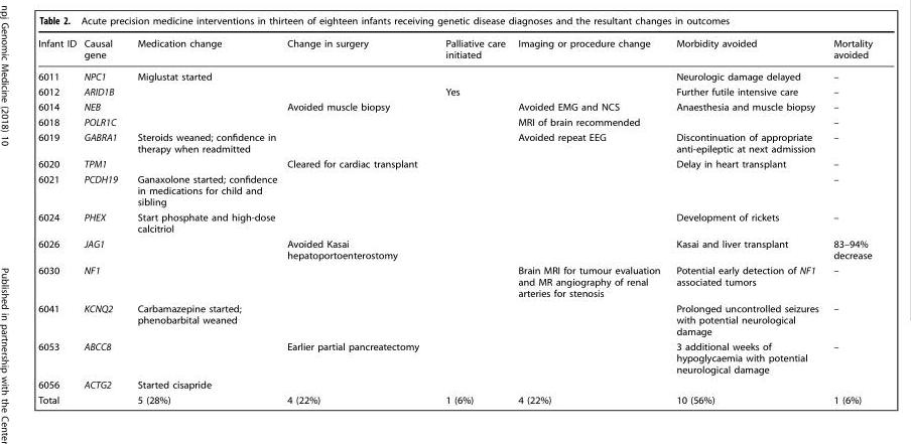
<table><thead><tr><td>Infant ID</td><td>Causal gene</td><td>Medication change</td><td>Change in surgery</td><td>Palliative care initiated</td><td>Imaging or procedure change</td><td>Morbidity avoided</td><td>Mortality avoided</td></tr></thead><tbody><tr><td>6011</td><td>NPC1</td><td>Miglustat started</td><td></td><td></td><td></td><td>Neurologic damage delayed</td><td>–</td></tr><tr><td>6012</td><td>ARID1B</td><td></td><td></td><td>Yes</td><td></td><td>Further futile intensive care</td><td>–</td></tr><tr><td>6014</td><td>NEB</td><td></td><td>Avoided muscle biopsy</td><td></td><td>Avoided EMG and NCS</td><td>Anaesthesia and muscle biopsy</td><td>–</td></tr><tr><td>6018</td><td>POLR1C</td><td></td><td></td><td></td><td>MRI of brain recommended</td><td></td><td>–</td></tr><tr><td>6019</td><td>GABRA1</td><td>Steroids weaned; confidence in therapy when readmitted</td><td></td><td></td><td>Avoided repeat EEG</td><td>Discontinuation of appropriate anti-epileptic at next admission</td><td>–</td></tr><tr><td>6020</td><td>TPM1</td><td></td><td>Cleared for cardiac transplant</td><td></td><td></td><td>Delay in heart transplant</td><td>–</td></tr><tr><td>6021</td><td>PCDH19</td><td>Ganaxolone started; confidence in medications for child and sibling</td><td></td><td></td><td></td><td></td><td>–</td></tr><tr><td>6024</td><td>PHEX</td><td>Start phosphate and high-dose calcitriol</td><td></td><td></td><td></td><td>Development of rickets</td><td>–</td></tr><tr><td>6026</td><td>JAG1</td><td></td><td>Avoided Kasai hepatoportoenterostomy</td><td></td><td></td><td>Kasai and liver transplant</td><td>83–94% decrease</td></tr><tr><td>6030</td><td>NF1</td><td></td><td></td><td></td><td>Brain MRI for tumour evaluation and MR angiography of renal arteries for stenosis</td><td>Potential early detection of NF1 associated tumors</td><td>–</td></tr><tr><td>6041</td><td>KCNQ2</td><td>Carbamazepine started; phenobarbital weaned</td><td></td><td></td><td></td><td>Prolonged uncontrolled seizures with potential neurological damage</td><td>–</td></tr><tr><td>6053</td><td>ABCC8</td><td></td><td>Earlier partial pancreatectomy</td><td></td><td></td><td>3 additional weeks of hypoglycaemia with potential neurological damage</td><td>–</td></tr><tr><td>6056</td><td>ACTG2</td><td>Started cisapride</td><td></td><td></td><td></td><td></td><td></td></tr><tr><td>Total</td><td></td><td>5 (28%)</td><td>4 (22%)</td><td>1 (6%)</td><td>4 (22%)</td><td>10 (56%)</td><td>1 (6%)</td></tr></tbody></table>